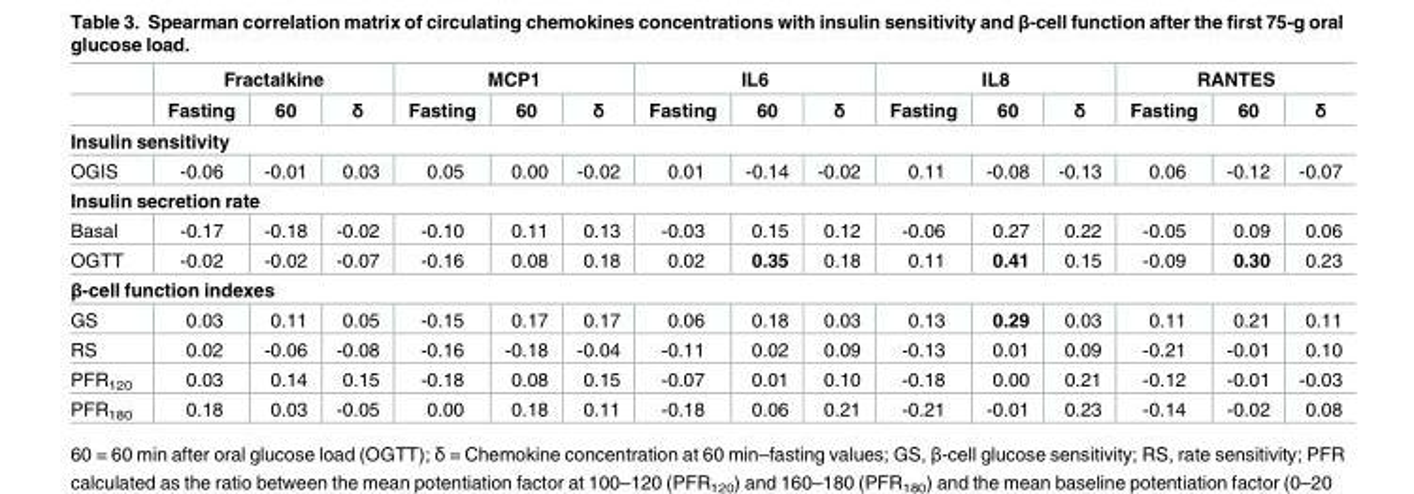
<table><thead><tr><td rowspan="2"></td><td colspan="3">Fractalkine</td><td colspan="3">MCP1</td><td colspan="3">IL6</td><td colspan="3">IL8</td><td colspan="3">RANTES</td></tr><tr><td>Fasting</td><td>60</td><td>δ</td><td>Fasting</td><td>60</td><td>δ</td><td>Fasting</td><td>60</td><td>δ</td><td>Fasting</td><td>60</td><td>δ</td><td>Fasting</td><td>60</td><td>δ</td></tr></thead><tbody><tr><td colspan="16">Insulin sensitivity</td></tr><tr><td>OGIS</td><td>-0.06</td><td>-0.01</td><td>0.03</td><td>0.05</td><td>0.00</td><td>-0.02</td><td>0.01</td><td>-0.14</td><td>-0.02</td><td>0.11</td><td>-0.08</td><td>-0.13</td><td>0.06</td><td>-0.12</td><td>-0.07</td></tr><tr><td colspan="16">Insulin secretion rate</td></tr><tr><td>Basal</td><td>-0.17</td><td>-0.18</td><td>-0.02</td><td>-0.10</td><td>0.11</td><td>0.13</td><td>-0.03</td><td>0.15</td><td>0.12</td><td>-0.06</td><td>0.27</td><td>0.22</td><td>-0.05</td><td>0.09</td><td>0.06</td></tr><tr><td>OGTT</td><td>-0.02</td><td>-0.02</td><td>-0.07</td><td>-0.16</td><td>0.08</td><td>0.18</td><td>0.02</td><td>0.35</td><td>0.18</td><td>0.11</td><td>0.41</td><td>0.15</td><td>-0.09</td><td>0.30</td><td>0.23</td></tr><tr><td colspan="16">β-cell function indexes</td></tr><tr><td>GS</td><td>0.03</td><td>0.11</td><td>0.05</td><td>-0.15</td><td>0.17</td><td>0.17</td><td>0.06</td><td>0.18</td><td>0.03</td><td>0.13</td><td>0.29</td><td>0.03</td><td>0.11</td><td>0.21</td><td>0.11</td></tr><tr><td>RS</td><td>0.02</td><td>-0.06</td><td>-0.08</td><td>-0.16</td><td>-0.18</td><td>-0.04</td><td>-0.11</td><td>0.02</td><td>0.09</td><td>-0.13</td><td>0.01</td><td>0.09</td><td>-0.21</td><td>-0.01</td><td>0.10</td></tr><tr><td>PFR<sub>120</sub></td><td>0.03</td><td>0.14</td><td>0.15</td><td>-0.18</td><td>0.08</td><td>0.15</td><td>-0.07</td><td>0.01</td><td>0.10</td><td>-0.18</td><td>0.00</td><td>0.21</td><td>-0.12</td><td>-0.01</td><td>-0.03</td></tr><tr><td>PFR<sub>180</sub></td><td>0.18</td><td>0.03</td><td>-0.05</td><td>0.00</td><td>0.18</td><td>0.11</td><td>-0.18</td><td>0.06</td><td>0.21</td><td>-0.21</td><td>-0.01</td><td>0.23</td><td>-0.14</td><td>-0.02</td><td>0.08</td></tr></tbody></table>